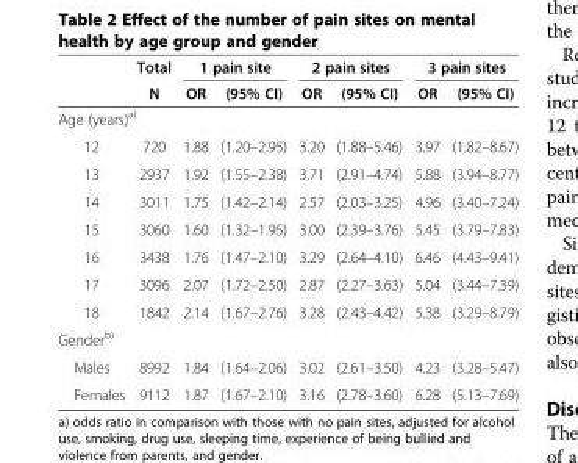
<table><thead><tr><td rowspan="2"></td><td rowspan="2">Total N</td><td colspan="2">1 pain site</td><td colspan="2">2 pain sites</td><td colspan="2">3 pain sites</td></tr><tr><td>OR</td><td>(95% CI)</td><td>OR</td><td>(95% CI)</td><td>OR</td><td>(95% CI)</td></tr></thead><tbody><tr><td colspan="8">Age (years)<sup>a)</sup></td></tr><tr><td>12</td><td>720</td><td>1.88</td><td>(1.20–2.95)</td><td>3.20</td><td>(1.88–5.46)</td><td>3.97</td><td>(1.82–8.67)</td></tr><tr><td>13</td><td>2937</td><td>1.92</td><td>(1.55–2.38)</td><td>3.71</td><td>(2.91–4.74)</td><td>5.88</td><td>(3.94–8.77)</td></tr><tr><td>14</td><td>3011</td><td>1.75</td><td>(1.42–2.14)</td><td>2.57</td><td>(2.03–3.25)</td><td>4.96</td><td>(3.40–7.24)</td></tr><tr><td>15</td><td>3060</td><td>1.60</td><td>(1.32–1.95)</td><td>3.00</td><td>(2.39–3.76)</td><td>5.45</td><td>(3.79–7.83)</td></tr><tr><td>16</td><td>3438</td><td>1.76</td><td>(1.47–2.10)</td><td>3.29</td><td>(2.64–4.10)</td><td>6.46</td><td>(4.43–9.41)</td></tr><tr><td>17</td><td>3096</td><td>2.07</td><td>(1.72–2.50)</td><td>2.87</td><td>(2.27–3.63)</td><td>5.04</td><td>(3.44–7.39)</td></tr><tr><td>18</td><td>1842</td><td>2.14</td><td>(1.67–2.76)</td><td>3.28</td><td>(2.43–4.42)</td><td>5.38</td><td>(3.29–8.79)</td></tr><tr><td colspan="8">Gender<sup>b)</sup></td></tr><tr><td>Males</td><td>8992</td><td>1.84</td><td>(1.64–2.06)</td><td>3.02</td><td>(2.61–3.50)</td><td>4.23</td><td>(3.28–5.47)</td></tr><tr><td>Females</td><td>9112</td><td>1.87</td><td>(1.67–2.10)</td><td>3.16</td><td>(2.78–3.60)</td><td>6.28</td><td>(5.13–7.69)</td></tr></tbody></table>